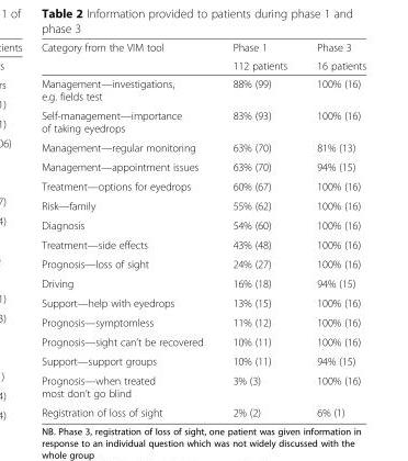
<table><thead><tr><td rowspan="2">Category from the VIM tool</td><td rowspan="2">Phase 1 112 patients</td><td rowspan="2">Phase 3 16 patients</td></tr><tr></tr></thead><tbody><tr><td>Management—investigations, e.g. fields test</td><td>88% (99)</td><td>100% (16)</td></tr><tr><td>Self-management—importance of taking eyedrops</td><td>83% (93)</td><td>100% (16)</td></tr><tr><td>Management—regular monitoring</td><td>63% (70)</td><td>81% (13)</td></tr><tr><td>Management—appointment issues</td><td>63% (70)</td><td>94% (15)</td></tr><tr><td>Treatment—options for eyedrops</td><td>60% (67)</td><td>100% (16)</td></tr><tr><td>Risk—family</td><td>55% (62)</td><td>100% (16)</td></tr><tr><td>Diagnosis</td><td>54% (60)</td><td>100% (16)</td></tr><tr><td>Treatment—side effects</td><td>43% (48)</td><td>100% (16)</td></tr><tr><td>Prognosis—loss of sight</td><td>24% (27)</td><td>100% (16)</td></tr><tr><td>Driving</td><td>16% (18)</td><td>94% (15)</td></tr><tr><td>Support—help with eyedrops</td><td>13% (15)</td><td>100% (16)</td></tr><tr><td>Prognosis—symptomless</td><td>11% (12)</td><td>100% (16)</td></tr><tr><td>Prognosis—sight can’t be recovered</td><td>10% (11)</td><td>100% (16)</td></tr><tr><td>Support—support groups</td><td>10% (11)</td><td>94% (15)</td></tr><tr><td>Prognosis—when treated most don’t go blind</td><td>3% (3)</td><td>100% (16)</td></tr><tr><td>Registration of loss of sight</td><td>2% (2)</td><td>6% (1)</td></tr></tbody></table>